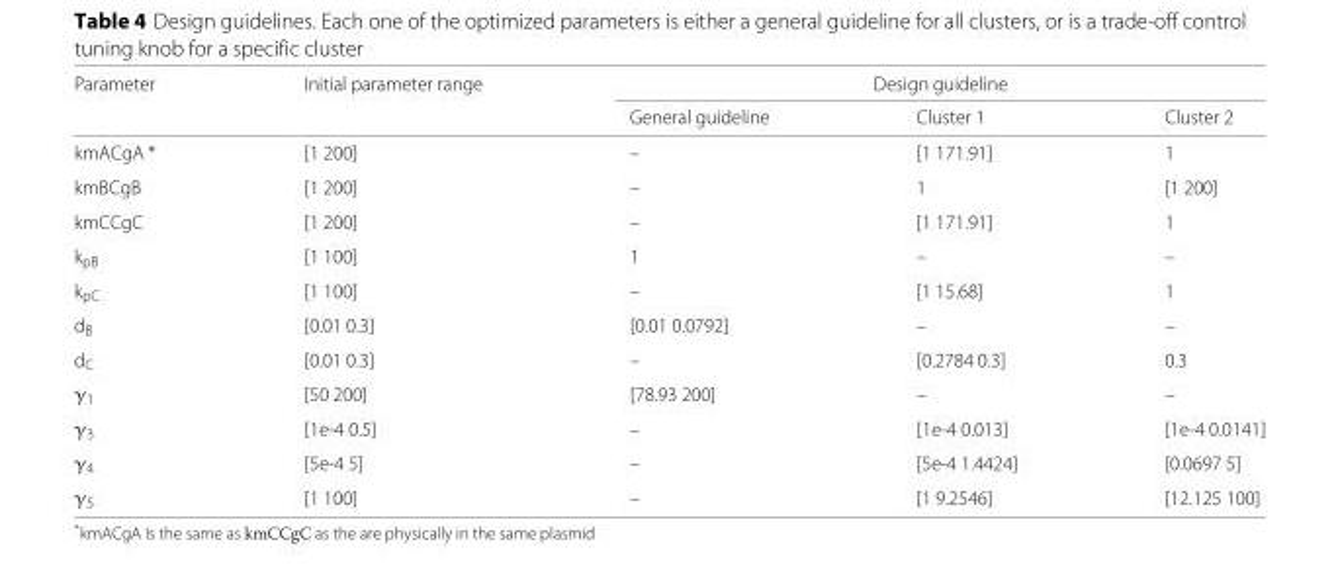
<table><thead><tr><td rowspan="2">Parameter</td><td rowspan="2">Initial parameter range</td><td colspan="3">Design guideline</td></tr><tr><td>General guideline</td><td>Cluster 1</td><td>Cluster 2</td></tr></thead><tbody><tr><td>kmACgA ∗</td><td>[1 200]</td><td>–</td><td>[1 171.91]</td><td>1</td></tr><tr><td>kmBCgB</td><td>[1 200]</td><td>–</td><td>1</td><td>[1 200]</td></tr><tr><td>kmCCgC</td><td>[1 200]</td><td>–</td><td>[1 171.91]</td><td>1</td></tr><tr><td>k<sub>pB</sub></td><td>[1 100]</td><td>1</td><td>–</td><td>–</td></tr><tr><td>k<sub>pC</sub></td><td>[1 100]</td><td>–</td><td>[1 15.68]</td><td>1</td></tr><tr><td>d<sub>B</sub></td><td>[0.01 0.3]</td><td>[0.01 0.0792]</td><td>–</td><td>–</td></tr><tr><td>d<sub>C</sub></td><td>[0.01 0.3]</td><td>–</td><td>[0.2784 0.3]</td><td>0.3</td></tr><tr><td>γ<sub>1</sub></td><td>[50 200]</td><td>[78.93 200]</td><td>–</td><td>–</td></tr><tr><td>γ<sub>3</sub></td><td>[1e-4 0.5]</td><td>–</td><td>[1e-4 0.013]</td><td>[1e-4 0.0141]</td></tr><tr><td>γ<sub>4</sub></td><td>[5e-4 5]</td><td>–</td><td>[5e-4 1.4424]</td><td>[0.0697 5]</td></tr><tr><td>γ<sub>5</sub></td><td>[1 100]</td><td>–</td><td>[1 9.2546]</td><td>[12.125 100]</td></tr></tbody></table>